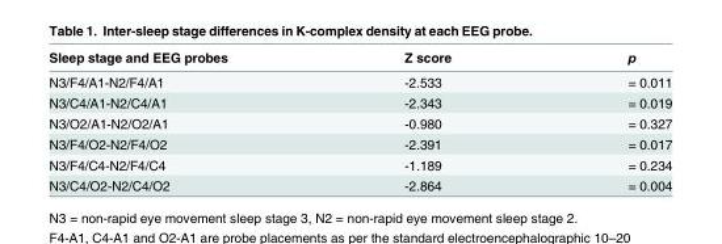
<table><thead><tr><td>Sleep stage and EEG probes</td><td>Z score</td><td>p</td></tr></thead><tbody><tr><td>N3/F4/A1-N2/F4/A1</td><td>-2.533</td><td>= 0.011</td></tr><tr><td>N3/C4/A1-N2/C4/A1</td><td>-2.343</td><td>= 0.019</td></tr><tr><td>N3/O2/A1-N2/O2/A1</td><td>-0.980</td><td>= 0.327</td></tr><tr><td>N3/F4/O2-N2/F4/O2</td><td>-2.391</td><td>= 0.017</td></tr><tr><td>N3/F4/C4-N2/F4/C4</td><td>-1.189</td><td>= 0.234</td></tr><tr><td>N3/C4/O2-N2/C4/O2</td><td>-2.864</td><td>= 0.004</td></tr></tbody></table>